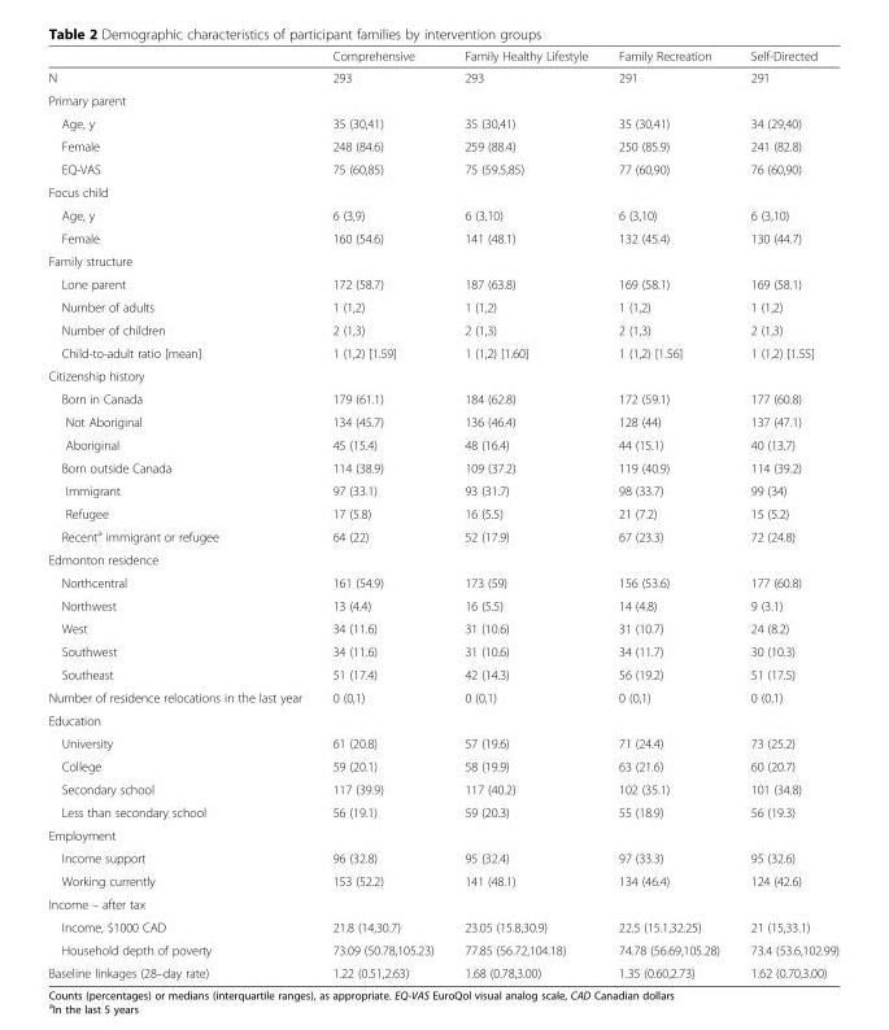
<table><thead><tr><td></td><td>Comprehensive</td><td>Family Healthy Lifestyle</td><td>Family Recreation</td><td>Self-Directed</td></tr></thead><tbody><tr><td>N</td><td>293</td><td>293</td><td>291</td><td>291</td></tr><tr><td colspan="5">Primary parent</td></tr><tr><td>Age, y</td><td>35 (30,41)</td><td>35 (30,41)</td><td>35 (30,41)</td><td>34 (29,40)</td></tr><tr><td>Female</td><td>248 (84.6)</td><td>259 (88.4)</td><td>250 (85.9)</td><td>241 (82.8)</td></tr><tr><td>EQ-VAS</td><td>75 (60,85)</td><td>75 (59.5,85)</td><td>77 (60,90)</td><td>76 (60,90)</td></tr><tr><td colspan="5">Focus child</td></tr><tr><td>Age, y</td><td>6 (3,9)</td><td>6 (3,10)</td><td>6 (3,10)</td><td>6 (3,10)</td></tr><tr><td>Female</td><td>160 (54.6)</td><td>141 (48.1)</td><td>132 (45.4)</td><td>130 (44.7)</td></tr><tr><td colspan="5">Family structure</td></tr><tr><td>Lone parent</td><td>172 (58.7)</td><td>187 (63.8)</td><td>169 (58.1)</td><td>169 (58.1)</td></tr><tr><td>Number of adults</td><td>1 (1,2)</td><td>1 (1,2)</td><td>1 (1,2)</td><td>1 (1,2)</td></tr><tr><td>Number of children</td><td>2 (1,3)</td><td>2 (1,3)</td><td>2 (1,3)</td><td>2 (1,3)</td></tr><tr><td>Child-to-adult ratio [mean]</td><td>1 (1,2) [1.59]</td><td>1 (1,2) [1.60]</td><td>1 (1,2) [1.56]</td><td>1 (1,2) [1.55]</td></tr><tr><td colspan="5">Citizenship history</td></tr><tr><td>Born in Canada</td><td>179 (61.1)</td><td>184 (62.8)</td><td>172 (59.1)</td><td>177 (60.8)</td></tr><tr><td>Not Aboriginal</td><td>134 (45.7)</td><td>136 (46.4)</td><td>128 (44)</td><td>137 (47.1)</td></tr><tr><td>Aboriginal</td><td>45 (15.4)</td><td>48 (16.4)</td><td>44 (15.1)</td><td>40 (13.7)</td></tr><tr><td>Born outside Canada</td><td>114 (38.9)</td><td>109 (37.2)</td><td>119 (40.9)</td><td>114 (39.2)</td></tr><tr><td>Immigrant</td><td>97 (33.1)</td><td>93 (31.7)</td><td>98 (33.7)</td><td>99 (34)</td></tr><tr><td>Refugee</td><td>17 (5.8)</td><td>16 (5.5)</td><td>21 (7.2)</td><td>15 (5.2)</td></tr><tr><td>Recent<sup>a</sup> immigrant or refugee</td><td>64 (22)</td><td>52 (17.9)</td><td>67 (23.3)</td><td>72 (24.8)</td></tr><tr><td colspan="5">Edmonton residence</td></tr><tr><td>Northcentral</td><td>161 (54.9)</td><td>173 (59)</td><td>156 (53.6)</td><td>177 (60.8)</td></tr><tr><td>Northwest</td><td>13 (4.4)</td><td>16 (5.5)</td><td>14 (4.8)</td><td>9 (3.1)</td></tr><tr><td>West</td><td>34 (11.6)</td><td>31 (10.6)</td><td>31 (10.7)</td><td>24 (8.2)</td></tr><tr><td>Southwest</td><td>34 (11.6)</td><td>31 (10.6)</td><td>34 (11.7)</td><td>30 (10.3)</td></tr><tr><td>Southeast</td><td>51 (17.4)</td><td>42 (14.3)</td><td>56 (19.2)</td><td>51 (17.5)</td></tr><tr><td>Number of residence relocations in the last year</td><td>0 (0,1)</td><td>0 (0,1)</td><td>0 (0,1)</td><td>0 (0,1)</td></tr><tr><td colspan="5">Education</td></tr><tr><td>University</td><td>61 (20.8)</td><td>57 (19.6)</td><td>71 (24.4)</td><td>73 (25.2)</td></tr><tr><td>College</td><td>59 (20.1)</td><td>58 (19.9)</td><td>63 (21.6)</td><td>60 (20.7)</td></tr><tr><td>Secondary school</td><td>117 (39.9)</td><td>117 (40.2)</td><td>102 (35.1)</td><td>101 (34.8)</td></tr><tr><td>Less than secondary school</td><td>56 (19.1)</td><td>59 (20.3)</td><td>55 (18.9)</td><td>56 (19.3)</td></tr><tr><td colspan="5">Employment</td></tr><tr><td>Income support</td><td>96 (32.8)</td><td>95 (32.4)</td><td>97 (33.3)</td><td>95 (32.6)</td></tr><tr><td>Working currently</td><td>153 (52.2)</td><td>141 (48.1)</td><td>134 (46.4)</td><td>124 (42.6)</td></tr><tr><td colspan="5">Income – after tax</td></tr><tr><td>Income, $1000 CAD</td><td>21.8 (14,30.7)</td><td>23.05 (15.8,30.9)</td><td>22.5 (15.1,32.25)</td><td>21 (15,33.1)</td></tr><tr><td>Household depth of poverty</td><td>73.09 (50.78,105.23)</td><td>77.85 (56.72,104.18)</td><td>74.78 (56.69,105.28)</td><td>73.4 (53.6,102.99)</td></tr><tr><td>Baseline linkages (28–day rate)</td><td>1.22 (0.51,2.63)</td><td>1.68 (0.78,3.00)</td><td>1.35 (0.60,2.73)</td><td>1.62 (0.70,3.00)</td></tr></tbody></table>